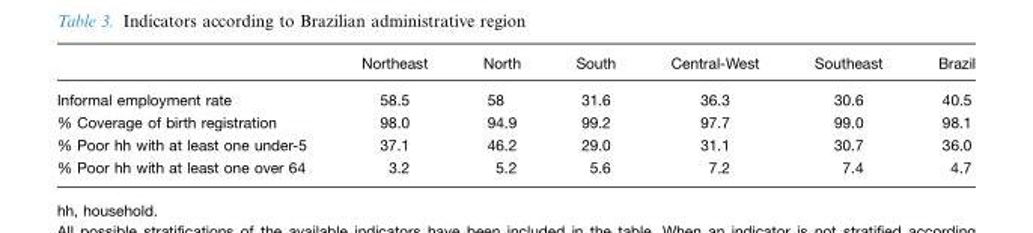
<table><thead><tr><td></td><td>Northeast</td><td>North</td><td>South</td><td>Central-West</td><td>Southeast</td><td>Brazil</td></tr></thead><tbody><tr><td>Informal employment rate</td><td>58.5</td><td>58</td><td>31.6</td><td>36.3</td><td>30.6</td><td>40.5</td></tr><tr><td>% Coverage of birth registration</td><td>98.0</td><td>94.9</td><td>99.2</td><td>97.7</td><td>99.0</td><td>98.1</td></tr><tr><td>% Poor hh with at least one under-5</td><td>37.1</td><td>46.2</td><td>29.0</td><td>31.1</td><td>30.7</td><td>36.0</td></tr><tr><td>% Poor hh with at least one over 64</td><td>3.2</td><td>5.2</td><td>5.6</td><td>7.2</td><td>7.4</td><td>4.7</td></tr></tbody></table>